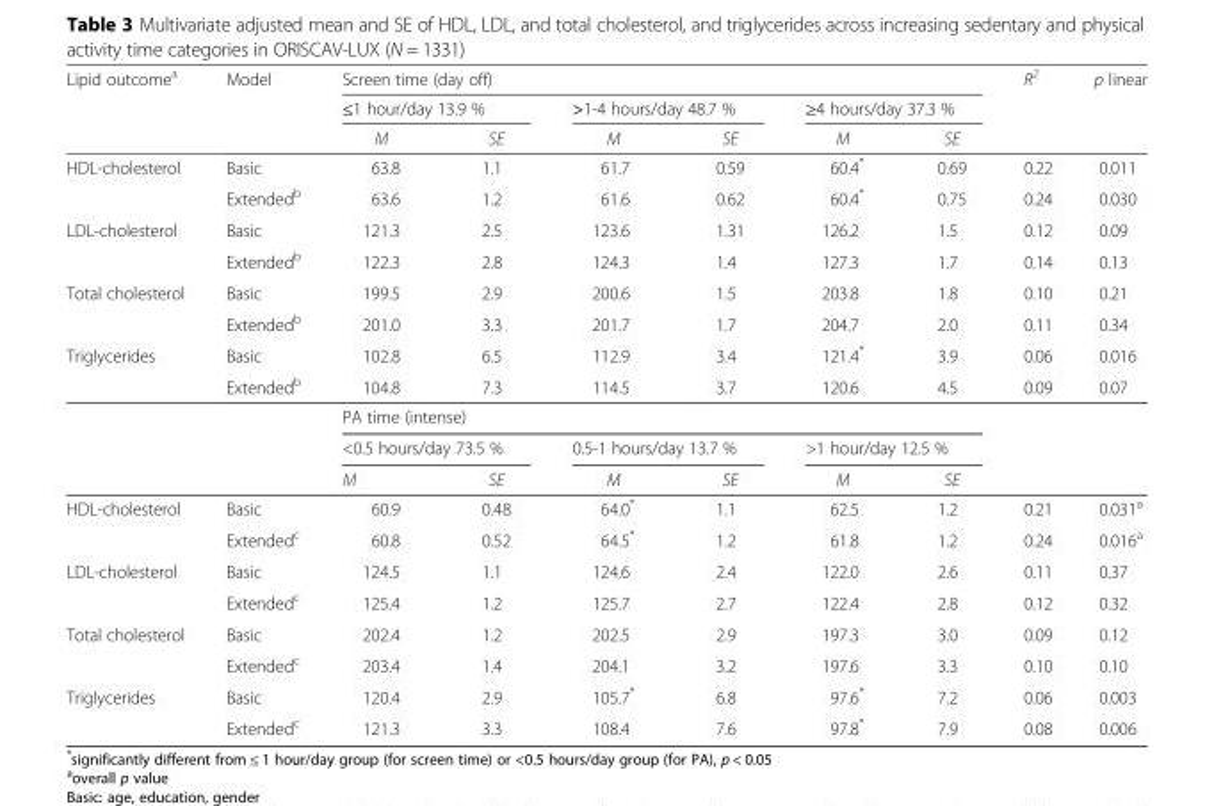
<table><thead><tr><td rowspan="3">Lipid outcome<sup>a</sup></td><td rowspan="3">Model</td><td colspan="6">Screen time (day off)</td><td rowspan="3">R<sup>2</sup></td><td rowspan="3">p linear</td></tr><tr><td colspan="2">≤1 hour/day 13.9 %</td><td colspan="2">&gt;1-4 hours/day 48.7 %</td><td colspan="2">≥4 hours/day 37.3 %</td></tr><tr><td>M</td><td>SE</td><td>M</td><td>SE</td><td>M</td><td>SE</td></tr></thead><tbody><tr><td rowspan="2">HDL-cholesterol</td><td>Basic</td><td>63.8</td><td>1.1</td><td>61.7</td><td>0.59</td><td>60.4*</td><td>0.69</td><td>0.22</td><td>0.011</td></tr><tr><td>Extended<sup>b</sup></td><td>63.6</td><td>1.2</td><td>61.6</td><td>0.62</td><td>60.4*</td><td>0.75</td><td>0.24</td><td>0.030</td></tr><tr><td rowspan="2">LDL-cholesterol</td><td>Basic</td><td>121.3</td><td>2.5</td><td>123.6</td><td>1.31</td><td>126.2</td><td>1.5</td><td>0.12</td><td>0.09</td></tr><tr><td>Extended<sup>b</sup></td><td>122.3</td><td>2.8</td><td>124.3</td><td>1.4</td><td>127.3</td><td>1.7</td><td>0.14</td><td>0.13</td></tr><tr><td rowspan="2">Total cholesterol</td><td>Basic</td><td>199.5</td><td>2.9</td><td>200.6</td><td>1.5</td><td>203.8</td><td>1.8</td><td>0.10</td><td>0.21</td></tr><tr><td>Extended<sup>b</sup></td><td>201.0</td><td>3.3</td><td>201.7</td><td>1.7</td><td>204.7</td><td>2.0</td><td>0.11</td><td>0.34</td></tr><tr><td rowspan="4">Triglycerides</td><td>Basic</td><td>102.8</td><td>6.5</td><td>112.9</td><td>3.4</td><td>121.4*</td><td>3.9</td><td>0.06</td><td>0.016</td></tr><tr><td>Extended<sup>b</sup></td><td>104.8</td><td>7.3</td><td>114.5</td><td>3.7</td><td>120.6</td><td>4.5</td><td>0.09</td><td>0.07</td></tr><tr><td></td><td colspan="6">PA time (intense)</td><td></td><td></td></tr><tr><td></td><td colspan="2">&lt;0.5 hours/day 73.5 %</td><td colspan="2">0.5-1 hours/day 13.7 %</td><td colspan="2">&gt;1 hour/day 12.5 %</td><td></td><td></td></tr><tr><td colspan="2"></td><td>M</td><td>SE</td><td>M</td><td>SE</td><td>M</td><td>SE</td><td></td><td></td></tr><tr><td rowspan="2">HDL-cholesterol</td><td>Basic</td><td>60.9</td><td>0.48</td><td>64.0*</td><td>1.1</td><td>62.5</td><td>1.2</td><td>0.21</td><td>0.031<sup>a</sup></td></tr><tr><td>Extended<sup>c</sup></td><td>60.8</td><td>0.52</td><td>64.5*</td><td>1.2</td><td>61.8</td><td>1.2</td><td>0.24</td><td>0.016<sup>a</sup></td></tr><tr><td rowspan="2">LDL-cholesterol</td><td>Basic</td><td>124.5</td><td>1.1</td><td>124.6</td><td>2.4</td><td>122.0</td><td>2.6</td><td>0.11</td><td>0.37</td></tr><tr><td>Extended<sup>c</sup></td><td>125.4</td><td>1.2</td><td>125.7</td><td>2.7</td><td>122.4</td><td>2.8</td><td>0.12</td><td>0.32</td></tr><tr><td rowspan="2">Total cholesterol</td><td>Basic</td><td>202.4</td><td>1.2</td><td>202.5</td><td>2.9</td><td>197.3</td><td>3.0</td><td>0.09</td><td>0.12</td></tr><tr><td>Extended<sup>c</sup></td><td>203.4</td><td>1.4</td><td>204.1</td><td>3.2</td><td>197.6</td><td>3.3</td><td>0.10</td><td>0.10</td></tr><tr><td rowspan="2">Triglycerides</td><td>Basic</td><td>120.4</td><td>2.9</td><td>105.7*</td><td>6.8</td><td>97.6*</td><td>7.2</td><td>0.06</td><td>0.003</td></tr><tr><td>Extended<sup>c</sup></td><td>121.3</td><td>3.3</td><td>108.4</td><td>7.6</td><td>97.8*</td><td>7.9</td><td>0.08</td><td>0.006</td></tr></tbody></table>